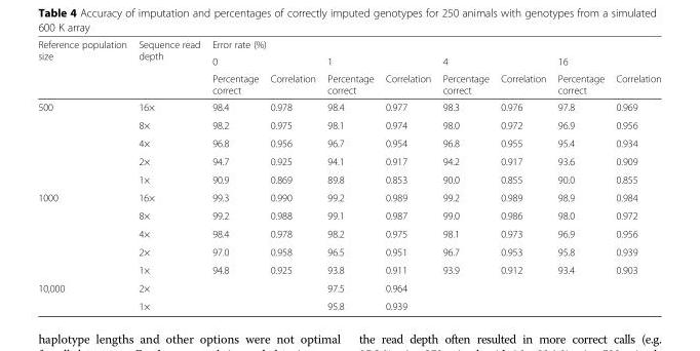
<table><thead><tr><td rowspan="3">Reference population size</td><td rowspan="3">Sequence read depth</td><td colspan="8">Error rate (%)</td></tr><tr><td colspan="2">0</td><td colspan="2">1</td><td colspan="2">4</td><td colspan="2">16</td></tr><tr><td>Percentage correct</td><td>Correlation</td><td>Percentage correct</td><td>Correlation</td><td>Percentage correct</td><td>Correlation</td><td>Percentage correct</td><td>Correlation</td></tr></thead><tbody><tr><td rowspan="5">500</td><td>16×</td><td>98.4</td><td>0.978</td><td>98.4</td><td>0.977</td><td>98.3</td><td>0.976</td><td>97.8</td><td>0.969</td></tr><tr><td>8×</td><td>98.2</td><td>0.975</td><td>98.1</td><td>0.974</td><td>98.0</td><td>0.972</td><td>96.9</td><td>0.956</td></tr><tr><td>4×</td><td>96.8</td><td>0.956</td><td>96.7</td><td>0.954</td><td>96.8</td><td>0.955</td><td>95.4</td><td>0.934</td></tr><tr><td>2×</td><td>94.7</td><td>0.925</td><td>94.1</td><td>0.917</td><td>94.2</td><td>0.917</td><td>93.6</td><td>0.909</td></tr><tr><td>1×</td><td>90.9</td><td>0.869</td><td>89.8</td><td>0.853</td><td>90.0</td><td>0.855</td><td>90.0</td><td>0.855</td></tr><tr><td rowspan="5">1000</td><td>16×</td><td>99.3</td><td>0.990</td><td>99.2</td><td>0.989</td><td>99.2</td><td>0.989</td><td>98.9</td><td>0.984</td></tr><tr><td>8×</td><td>99.2</td><td>0.988</td><td>99.1</td><td>0.987</td><td>99.0</td><td>0.986</td><td>98.0</td><td>0.972</td></tr><tr><td>4×</td><td>98.4</td><td>0.978</td><td>98.2</td><td>0.975</td><td>98.1</td><td>0.973</td><td>96.9</td><td>0.956</td></tr><tr><td>2×</td><td>97.0</td><td>0.958</td><td>96.5</td><td>0.951</td><td>96.7</td><td>0.953</td><td>95.8</td><td>0.939</td></tr><tr><td>1×</td><td>94.8</td><td>0.925</td><td>93.8</td><td>0.911</td><td>93.9</td><td>0.912</td><td>93.4</td><td>0.903</td></tr><tr><td rowspan="2">10,000</td><td>2×</td><td></td><td></td><td>97.5</td><td>0.964</td><td></td><td></td><td></td><td></td></tr><tr><td>1×</td><td></td><td></td><td>95.8</td><td>0.939</td><td></td><td></td><td></td><td></td></tr></tbody></table>